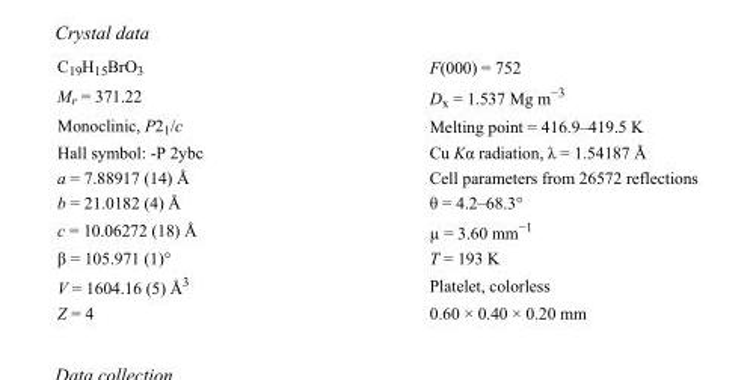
<table><tbody><tr><td>C<sub>19</sub>H<sub>15</sub>BrO<sub>3</sub></td><td>F(000) = 752</td></tr><tr><td>M<sub>r</sub> = 371.22</td><td>D<sub>x</sub> = 1.537 Mg m<sup>−3</sup></td></tr><tr><td>Monoclinic, P2<sub>1</sub>/c</td><td>Melting point = 416.9–419.5 K</td></tr><tr><td>Hall symbol: -P 2ybc</td><td>Cu Kα radiation, λ = 1.54187 Å</td></tr><tr><td>a = 7.88917 (14) Å</td><td>Cell parameters from 26572 reflections</td></tr><tr><td>b = 21.0182 (4) Å</td><td>θ = 4.2–68.3°</td></tr><tr><td>c = 10.06272 (18) Å</td><td>µ = 3.60 mm<sup>−1</sup></td></tr><tr><td>β = 105.971 (1)°</td><td>T = 193 K</td></tr><tr><td>V = 1604.16 (5) Å<sup>3</sup></td><td>Platelet, colorless</td></tr><tr><td>Z = 4</td><td>0.60 × 0.40 × 0.20 mm</td></tr></tbody></table>